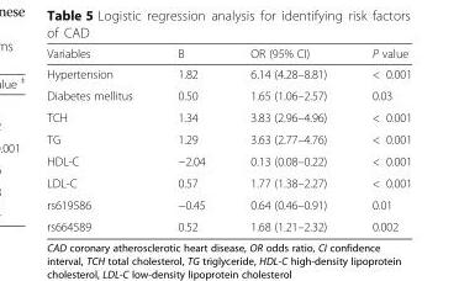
<table><thead><tr><td>Variables</td><td>B</td><td>OR (95% CI)</td><td>P value</td></tr></thead><tbody><tr><td>Hypertension</td><td>1.82</td><td>6.14 (4.28–8.81)</td><td>&lt; 0.001</td></tr><tr><td>Diabetes mellitus</td><td>0.50</td><td>1.65 (1.06–2.57)</td><td>0.03</td></tr><tr><td>TCH</td><td>1.34</td><td>3.83 (2.96–4.96)</td><td>&lt; 0.001</td></tr><tr><td>TG</td><td>1.29</td><td>3.63 (2.77–4.76)</td><td>&lt; 0.001</td></tr><tr><td>HDL-C</td><td>−2.04</td><td>0.13 (0.08–0.22)</td><td>&lt; 0.001</td></tr><tr><td>LDL-C</td><td>0.57</td><td>1.77 (1.38–2.27)</td><td>&lt; 0.001</td></tr><tr><td>rs619586</td><td>−0.45</td><td>0.64 (0.46–0.91)</td><td>0.01</td></tr><tr><td>rs664589</td><td>0.52</td><td>1.68 (1.21–2.32)</td><td>0.002</td></tr></tbody></table>